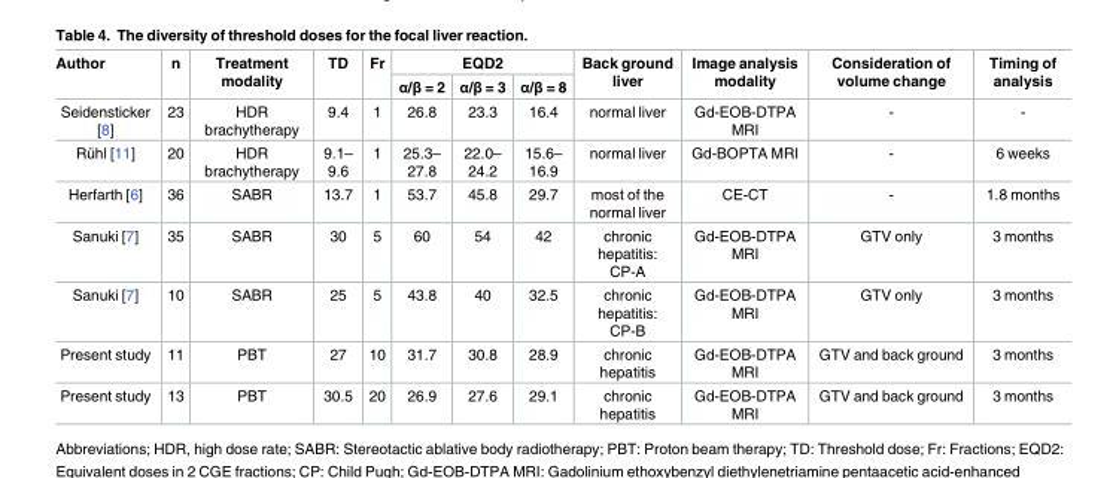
<table><thead><tr><td rowspan="2">Author</td><td rowspan="2">n</td><td rowspan="2">Treatment modality</td><td rowspan="2">TD</td><td rowspan="2">Fr</td><td colspan="3">EQD2</td><td rowspan="2">Back ground liver</td><td rowspan="2">Image analysis modality</td><td rowspan="2">Consideration of volume change</td><td rowspan="2">Timing of analysis</td></tr><tr><td>α/β = 2</td><td>α/β = 3</td><td>α/β = 8</td></tr></thead><tbody><tr><td>Seidensticker [8]</td><td>23</td><td>HDR brachytherapy</td><td>9.4</td><td>1</td><td>26.8</td><td>23.3</td><td>16.4</td><td>normal liver</td><td>Gd-EOB-DTPA MRI</td><td>-</td><td>-</td></tr><tr><td>Ru¨hl [11]</td><td>20</td><td>HDR brachytherapy</td><td>9.1– 9.6</td><td>1</td><td>25.3– 27.8</td><td>22.0– 24.2</td><td>15.6– 16.9</td><td>normal liver</td><td>Gd-BOPTA MRI</td><td>-</td><td>6 weeks</td></tr><tr><td>Herfarth [6]</td><td>36</td><td>SABR</td><td>13.7</td><td>1</td><td>53.7</td><td>45.8</td><td>29.7</td><td>most of the normal liver</td><td>CE-CT</td><td>-</td><td>1.8 months</td></tr><tr><td>Sanuki [7]</td><td>35</td><td>SABR</td><td>30</td><td>5</td><td>60</td><td>54</td><td>42</td><td>chronic hepatitis: CP-A</td><td>Gd-EOB-DTPA MRI</td><td>GTV only</td><td>3 months</td></tr><tr><td>Sanuki [7]</td><td>10</td><td>SABR</td><td>25</td><td>5</td><td>43.8</td><td>40</td><td>32.5</td><td>chronic hepatitis: CP-B</td><td>Gd-EOB-DTPA MRI</td><td>GTV only</td><td>3 months</td></tr><tr><td>Present study</td><td>11</td><td>PBT</td><td>27</td><td>10</td><td>31.7</td><td>30.8</td><td>28.9</td><td>chronic hepatitis</td><td>Gd-EOB-DTPA MRI</td><td>GTV and back ground</td><td>3 months</td></tr><tr><td>Present study</td><td>13</td><td>PBT</td><td>30.5</td><td>20</td><td>26.9</td><td>27.6</td><td>29.1</td><td>chronic hepatitis</td><td>Gd-EOB-DTPA MRI</td><td>GTV and back ground</td><td>3 months</td></tr></tbody></table>